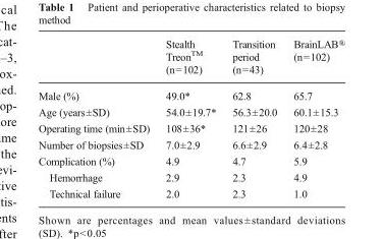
<table><thead><tr><td></td><td>Stealth Treon<sup>TM</sup> (n=102)</td><td>Transition period (n=43)</td><td>BrainLAB® (n=102)</td></tr></thead><tbody><tr><td>Male (%)</td><td>49.0*</td><td>62.8</td><td>65.7</td></tr><tr><td>Age (years±SD)</td><td>54.0±19.7*</td><td>56.3±20.0</td><td>60.1±15.3</td></tr><tr><td>Operating time (min±SD)</td><td>108±36*</td><td>121±26</td><td>120±28</td></tr><tr><td>Number of biopsies±SD</td><td>7.0±2.9</td><td>6.6±2.9</td><td>6.4±2.8</td></tr><tr><td>Complication (%)</td><td>4.9</td><td>4.7</td><td>5.9</td></tr><tr><td>Hemorrhage</td><td>2.9</td><td>2.3</td><td>4.9</td></tr><tr><td>Technical failure</td><td>2.0</td><td>2.3</td><td>1.0</td></tr></tbody></table>